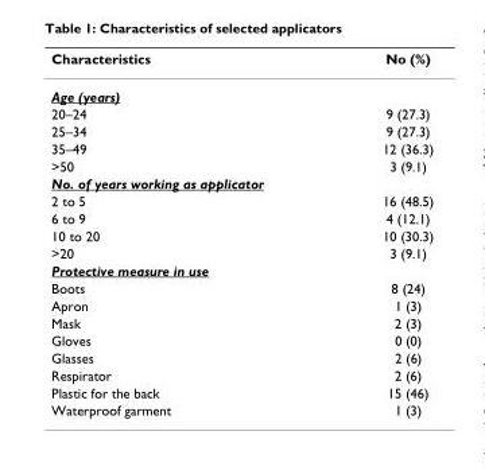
<table><thead><tr><td>Characteristics</td><td>No (%)</td></tr></thead><tbody><tr><td colspan="2">Age (years)</td></tr><tr><td>20–24</td><td>9 (27.3)</td></tr><tr><td>25–34</td><td>9 (27.3)</td></tr><tr><td>35–49</td><td>12 (36.3)</td></tr><tr><td>&gt;50</td><td>3 (9.1)</td></tr><tr><td colspan="2">No. of years working as applicator</td></tr><tr><td>2 to 5</td><td>16 (48.5)</td></tr><tr><td>6 to 9</td><td>4 (12.1)</td></tr><tr><td>10 to 20</td><td>10 (30.3)</td></tr><tr><td>&gt;20</td><td>3 (9.1)</td></tr><tr><td colspan="2">Protective measure in use</td></tr><tr><td>Boots</td><td>8 (24)</td></tr><tr><td>Apron</td><td>1 (3)</td></tr><tr><td>Mask</td><td>2 (3)</td></tr><tr><td>Gloves</td><td>0 (0)</td></tr><tr><td>Glasses</td><td>2 (6)</td></tr><tr><td>Respirator</td><td>2 (6)</td></tr><tr><td>Plastic for the back</td><td>15 (46)</td></tr><tr><td>Waterproof garment</td><td>1 (3)</td></tr></tbody></table>